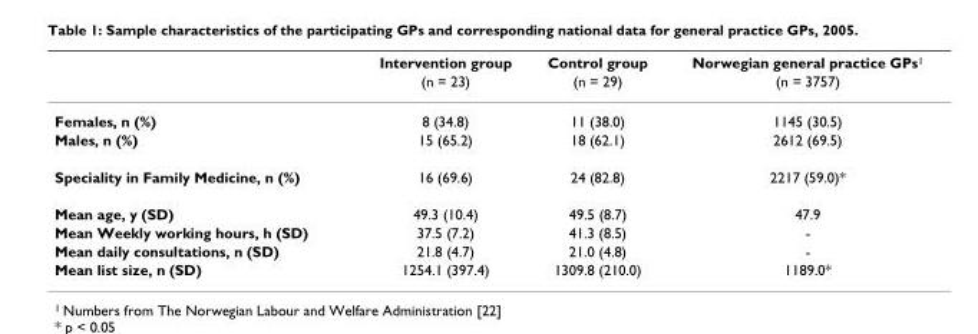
<table><thead><tr><td rowspan="2"></td><td rowspan="2">Intervention group (n = 23)</td><td rowspan="2">Control group (n = 29)</td><td rowspan="2">Norwegian general practice GPs<sup>1</sup> (n = 3757)</td></tr><tr></tr></thead><tbody><tr><td>Females, n (%)</td><td>8 (34.8)</td><td>11 (38.0)</td><td>1145 (30.5)</td></tr><tr><td>Males, n (%)</td><td>15 (65.2)</td><td>18 (62.1)</td><td>2612 (69.5)</td></tr><tr><td>Speciality in Family Medicine, n (%)</td><td>16 (69.6)</td><td>24 (82.8)</td><td>2217 (59.0)*</td></tr><tr><td>Mean age, y (SD)</td><td>49.3 (10.4)</td><td>49.5 (8.7)</td><td>47.9</td></tr><tr><td>Mean Weekly working hours, h (SD)</td><td>37.5 (7.2)</td><td>41.3 (8.5)</td><td>-</td></tr><tr><td>Mean daily consultations, n (SD)</td><td>21.8 (4.7)</td><td>21.0 (4.8)</td><td>-</td></tr><tr><td>Mean list size, n (SD)</td><td>1254.1 (397.4)</td><td>1309.8 (210.0)</td><td>1189.0*</td></tr></tbody></table>